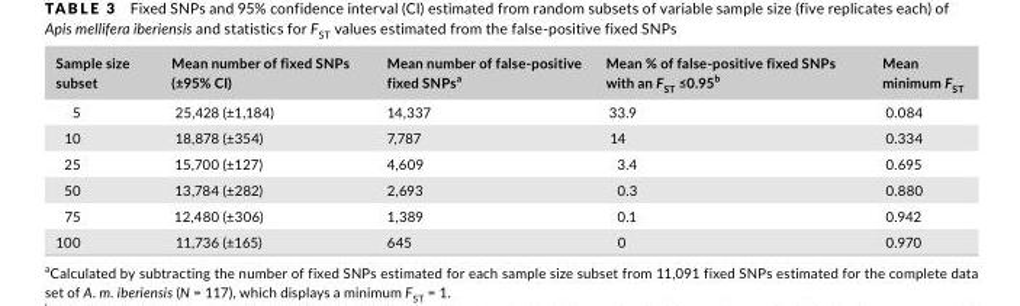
<table><thead><tr><td>Sample size subset</td><td>Mean number of fixed SNPs (±95% CI)</td><td>Mean number of false- positive fixed SNPs<sup>a</sup></td><td>Mean % of false- positive fixed SNPs with an F<sub>ST</sub> ≤0.95<sup>b</sup></td><td>Mean minimum F<sub>ST</sub></td></tr></thead><tbody><tr><td>5</td><td>25,428 (±1,184)</td><td>14,337</td><td>33.9</td><td>0.084</td></tr><tr><td>10</td><td>18,878 (±354)</td><td>7,787</td><td>14</td><td>0.334</td></tr><tr><td>25</td><td>15,700 (±127)</td><td>4,609</td><td>3.4</td><td>0.695</td></tr><tr><td>50</td><td>13,784 (±282)</td><td>2,693</td><td>0.3</td><td>0.880</td></tr><tr><td>75</td><td>12,480 (±306)</td><td>1,389</td><td>0.1</td><td>0.942</td></tr><tr><td>100</td><td>11,736 (±165)</td><td>645</td><td>0</td><td>0.970</td></tr></tbody></table>